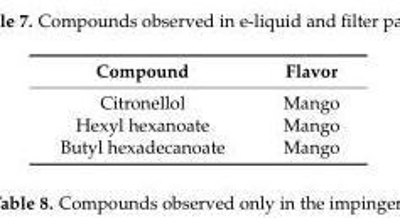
<table><thead><tr><td>Compound</td><td>Flavor</td></tr></thead><tbody><tr><td>Citronellol</td><td>Mango</td></tr><tr><td>Hexyl hexanoate</td><td>Mango</td></tr><tr><td>Butyl hexadecanoate</td><td>Mango</td></tr></tbody></table>